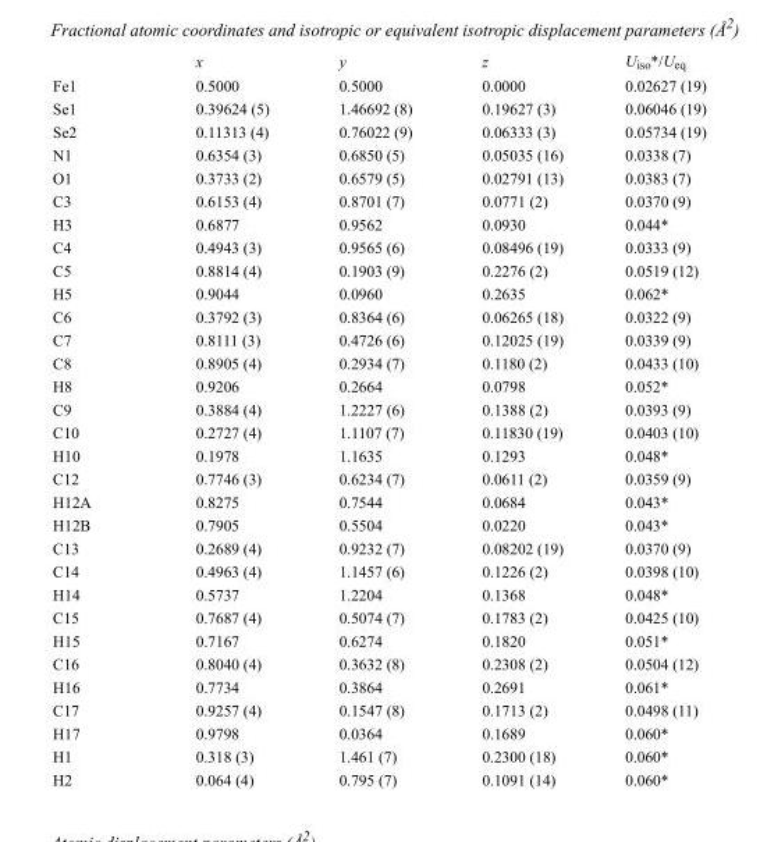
<table><thead><tr><td></td><td>x</td><td>y</td><td>z</td><td>U<sub>iso</sub>*/U<sub>eq</sub></td></tr></thead><tbody><tr><td>Fe1</td><td>0.5000</td><td>0.5000</td><td>0.0000</td><td>0.02627 (19)</td></tr><tr><td>Se1</td><td>0.39624 (5)</td><td>1.46692 (8)</td><td>0.19627 (3)</td><td>0.06046 (19)</td></tr><tr><td>Se2</td><td>0.11313 (4)</td><td>0.76022 (9)</td><td>0.06333 (3)</td><td>0.05734 (19)</td></tr><tr><td>N1</td><td>0.6354 (3)</td><td>0.6850 (5)</td><td>0.05035 (16)</td><td>0.0338 (7)</td></tr><tr><td>O1</td><td>0.3733 (2)</td><td>0.6579 (5)</td><td>0.02791 (13)</td><td>0.0383 (7)</td></tr><tr><td>C3</td><td>0.6153 (4)</td><td>0.8701 (7)</td><td>0.0771 (2)</td><td>0.0370 (9)</td></tr><tr><td>H3</td><td>0.6877</td><td>0.9562</td><td>0.0930</td><td>0.044*</td></tr><tr><td>C4</td><td>0.4943 (3)</td><td>0.9565 (6)</td><td>0.08496 (19)</td><td>0.0333 (9)</td></tr><tr><td>C5</td><td>0.8814 (4)</td><td>0.1903 (9)</td><td>0.2276 (2)</td><td>0.0519 (12)</td></tr><tr><td>H5</td><td>0.9044</td><td>0.0960</td><td>0.2635</td><td>0.062*</td></tr><tr><td>C6</td><td>0.3792 (3)</td><td>0.8364 (6)</td><td>0.06265 (18)</td><td>0.0322 (9)</td></tr><tr><td>C7</td><td>0.8111 (3)</td><td>0.4726 (6)</td><td>0.12025 (19)</td><td>0.0339 (9)</td></tr><tr><td>C8</td><td>0.8905 (4)</td><td>0.2934 (7)</td><td>0.1180 (2)</td><td>0.0433 (10)</td></tr><tr><td>H8</td><td>0.9206</td><td>0.2664</td><td>0.0798</td><td>0.052*</td></tr><tr><td>C9</td><td>0.3884 (4)</td><td>1.2227 (6)</td><td>0.1388 (2)</td><td>0.0393 (9)</td></tr><tr><td>C10</td><td>0.2727 (4)</td><td>1.1107 (7)</td><td>0.11830 (19)</td><td>0.0403 (10)</td></tr><tr><td>H10</td><td>0.1978</td><td>1.1635</td><td>0.1293</td><td>0.048*</td></tr><tr><td>C12</td><td>0.7746 (3)</td><td>0.6234 (7)</td><td>0.0611 (2)</td><td>0.0359 (9)</td></tr><tr><td>H12A</td><td>0.8275</td><td>0.7544</td><td>0.0684</td><td>0.043*</td></tr><tr><td>H12B</td><td>0.7905</td><td>0.5504</td><td>0.0220</td><td>0.043*</td></tr><tr><td>C13</td><td>0.2689 (4)</td><td>0.9232 (7)</td><td>0.08202 (19)</td><td>0.0370 (9)</td></tr><tr><td>C14</td><td>0.4963 (4)</td><td>1.1457 (6)</td><td>0.1226 (2)</td><td>0.0398 (10)</td></tr><tr><td>H14</td><td>0.5737</td><td>1.2204</td><td>0.1368</td><td>0.048*</td></tr><tr><td>C15</td><td>0.7687 (4)</td><td>0.5074 (7)</td><td>0.1783 (2)</td><td>0.0425 (10)</td></tr><tr><td>H15</td><td>0.7167</td><td>0.6274</td><td>0.1820</td><td>0.051*</td></tr><tr><td>C16</td><td>0.8040 (4)</td><td>0.3632 (8)</td><td>0.2308 (2)</td><td>0.0504 (12)</td></tr><tr><td>H16</td><td>0.7734</td><td>0.3864</td><td>0.2691</td><td>0.061*</td></tr><tr><td>C17</td><td>0.9257 (4)</td><td>0.1547 (8)</td><td>0.1713 (2)</td><td>0.0498 (11)</td></tr><tr><td>H17</td><td>0.9798</td><td>0.0364</td><td>0.1689</td><td>0.060*</td></tr><tr><td>H1</td><td>0.318 (3)</td><td>1.461 (7)</td><td>0.2300 (18)</td><td>0.060*</td></tr><tr><td>H2</td><td>0.064 (4)</td><td>0.795 (7)</td><td>0.1091 (14)</td><td>0.060*</td></tr></tbody></table>